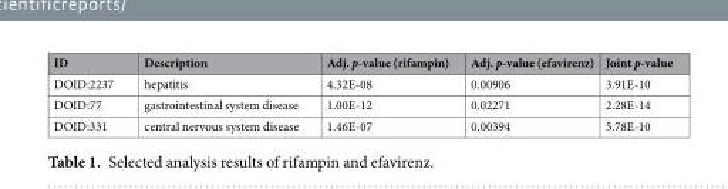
<table><thead><tr><td>ID</td><td>Description</td><td>Adj. p-value (rifampin)</td><td>Adj. p-value (efavirenz)</td><td>Joint p-value</td></tr></thead><tbody><tr><td>DOID:2237</td><td>hepatitis</td><td>4.32E-08</td><td>0.00906</td><td>3.91E-10</td></tr><tr><td>DOID:77</td><td>gastrointestinal system disease</td><td>1.00E-12</td><td>0.02271</td><td>2.28E-14</td></tr><tr><td>DOID:331</td><td>central nervous system disease</td><td>1.46E-07</td><td>0.00394</td><td>5.78E-10</td></tr></tbody></table>